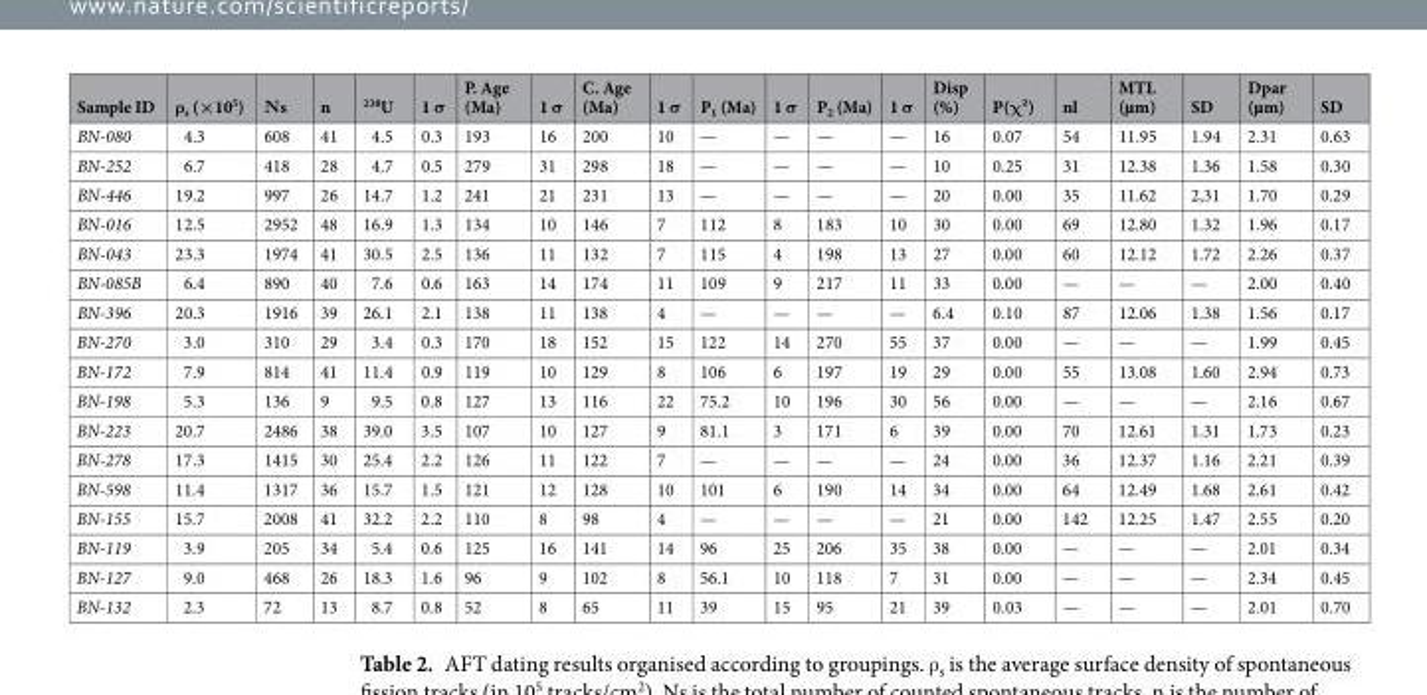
<table><thead><tr><td>Sample ID</td><td>ρ<sub>s</sub> (×10<sup>5</sup>)</td><td>Νs</td><td>n</td><td><sup>238</sup>U</td><td>1 σ</td><td>P. Age (Ma)</td><td>1 σ</td><td>C. Age (Ma)</td><td>1 σ</td><td>P<sub>1</sub> (Ma)</td><td>1 σ</td><td>P<sub>2</sub> (Ma)</td><td>1 σ</td><td>Disp (%)</td><td>P(χ²)</td><td>nl</td><td>MTL (µm)</td><td>SD</td><td>Dpar (µm)</td><td>SD</td></tr></thead><tbody><tr><td>BN-080</td><td>4.3</td><td>608</td><td>41</td><td>4.5</td><td>0.3</td><td>193</td><td>16</td><td>200</td><td>10</td><td>—</td><td>—</td><td>—</td><td>—</td><td>16</td><td>0.07</td><td>54</td><td>11.95</td><td>1.94</td><td>2.31</td><td>0.63</td></tr><tr><td>BN-252</td><td>6.7</td><td>418</td><td>28</td><td>4.7</td><td>0.5</td><td>279</td><td>31</td><td>298</td><td>18</td><td>—</td><td>—</td><td>—</td><td>—</td><td>10</td><td>0.25</td><td>31</td><td>12.38</td><td>1.36</td><td>1.58</td><td>0.30</td></tr><tr><td>BN-446</td><td>19.2</td><td>997</td><td>26</td><td>14.7</td><td>1.2</td><td>241</td><td>21</td><td>231</td><td>13</td><td>—</td><td>—</td><td>—</td><td>—</td><td>20</td><td>0.00</td><td>35</td><td>11.62</td><td>2,31</td><td>1.70</td><td>0.29</td></tr><tr><td>BN-016</td><td>12.5</td><td>2952</td><td>48</td><td>16.9</td><td>1.3</td><td>134</td><td>10</td><td>146</td><td>7</td><td>112</td><td>8</td><td>183</td><td>10</td><td>30</td><td>0.00</td><td>69</td><td>12.80</td><td>1.32</td><td>1.96</td><td>0.17</td></tr><tr><td>BN-043</td><td>23.3</td><td>1974</td><td>41</td><td>30.5</td><td>2.5</td><td>136</td><td>11</td><td>132</td><td>7</td><td>115</td><td>4</td><td>198</td><td>13</td><td>27</td><td>0.00</td><td>60</td><td>12.12</td><td>1.72</td><td>2.26</td><td>0.37</td></tr><tr><td>BN-085B</td><td>6.4</td><td>890</td><td>40</td><td>7.6</td><td>0.6</td><td>163</td><td>14</td><td>174</td><td>11</td><td>109</td><td>9</td><td>217</td><td>11</td><td>33</td><td>0.00</td><td>—</td><td>—</td><td>—</td><td>2.00</td><td>0.40</td></tr><tr><td>BN-396</td><td>20.3</td><td>1916</td><td>39</td><td>26.1</td><td>2.1</td><td>138</td><td>11</td><td>138</td><td>4</td><td>—</td><td>—</td><td>—</td><td>—</td><td>6.4</td><td>0.10</td><td>87</td><td>12.06</td><td>1.38</td><td>1.56</td><td>0.17</td></tr><tr><td>BN-270</td><td>3.0</td><td>310</td><td>29</td><td>3.4</td><td>0.3</td><td>170</td><td>18</td><td>152</td><td>15</td><td>122</td><td>14</td><td>270</td><td>55</td><td>37</td><td>0.00</td><td>—</td><td>—</td><td>—</td><td>1.99</td><td>0.45</td></tr><tr><td>BN-172</td><td>7.9</td><td>814</td><td>41</td><td>11.4</td><td>0.9</td><td>119</td><td>10</td><td>129</td><td>8</td><td>106</td><td>6</td><td>197</td><td>19</td><td>29</td><td>0.00</td><td>55</td><td>13.08</td><td>1.60</td><td>2.94</td><td>0.73</td></tr><tr><td>BN-198</td><td>5.3</td><td>136</td><td>9</td><td>9.5</td><td>0.8</td><td>127</td><td>13</td><td>116</td><td>22</td><td>75.2</td><td>10</td><td>196</td><td>30</td><td>56</td><td>0.00</td><td>—</td><td>—</td><td>—</td><td>2.16</td><td>0.67</td></tr><tr><td>BN-223</td><td>20.7</td><td>2486</td><td>38</td><td>39.0</td><td>3.5</td><td>107</td><td>10</td><td>127</td><td>9</td><td>81.1</td><td>3</td><td>171</td><td>6</td><td>39</td><td>0.00</td><td>70</td><td>12.61</td><td>1.31</td><td>1.73</td><td>0.23</td></tr><tr><td>BN-278</td><td>17.3</td><td>1415</td><td>30</td><td>25.4</td><td>2.2</td><td>126</td><td>11</td><td>122</td><td>7</td><td>—</td><td>—</td><td>—</td><td>—</td><td>24</td><td>0.00</td><td>36</td><td>12.37</td><td>1.16</td><td>2.21</td><td>0.39</td></tr><tr><td>BN-598</td><td>11.4</td><td>1317</td><td>36</td><td>15.7</td><td>1.5</td><td>121</td><td>12</td><td>128</td><td>10</td><td>101</td><td>6</td><td>190</td><td>14</td><td>34</td><td>0.00</td><td>64</td><td>12.49</td><td>1.68</td><td>2.61</td><td>0.42</td></tr><tr><td>BN-155</td><td>15.7</td><td>2008</td><td>41</td><td>32.2</td><td>2.2</td><td>110</td><td>8</td><td>98</td><td>4</td><td>—</td><td>—</td><td>—</td><td>—</td><td>21</td><td>0.00</td><td>142</td><td>12.25</td><td>1.47</td><td>2.55</td><td>0.20</td></tr><tr><td>BN-119</td><td>3.9</td><td>205</td><td>34</td><td>5.4</td><td>0.6</td><td>125</td><td>16</td><td>141</td><td>14</td><td>96</td><td>25</td><td>206</td><td>35</td><td>38</td><td>0.00</td><td>—</td><td>—</td><td>—</td><td>2.01</td><td>0.34</td></tr><tr><td>BN-127</td><td>9.0</td><td>468</td><td>26</td><td>18.3</td><td>1.6</td><td>96</td><td>9</td><td>102</td><td>8</td><td>56.1</td><td>10</td><td>118</td><td>7</td><td>31</td><td>0.00</td><td>—</td><td>—</td><td>—</td><td>2.34</td><td>0.45</td></tr><tr><td>BN-132</td><td>2.3</td><td>72</td><td>13</td><td>8.7</td><td>0.8</td><td>52</td><td>8</td><td>65</td><td>11</td><td>39</td><td>15</td><td>95</td><td>21</td><td>39</td><td>0.03</td><td>—</td><td>—</td><td>—</td><td>2.01</td><td>0.70</td></tr></tbody></table>